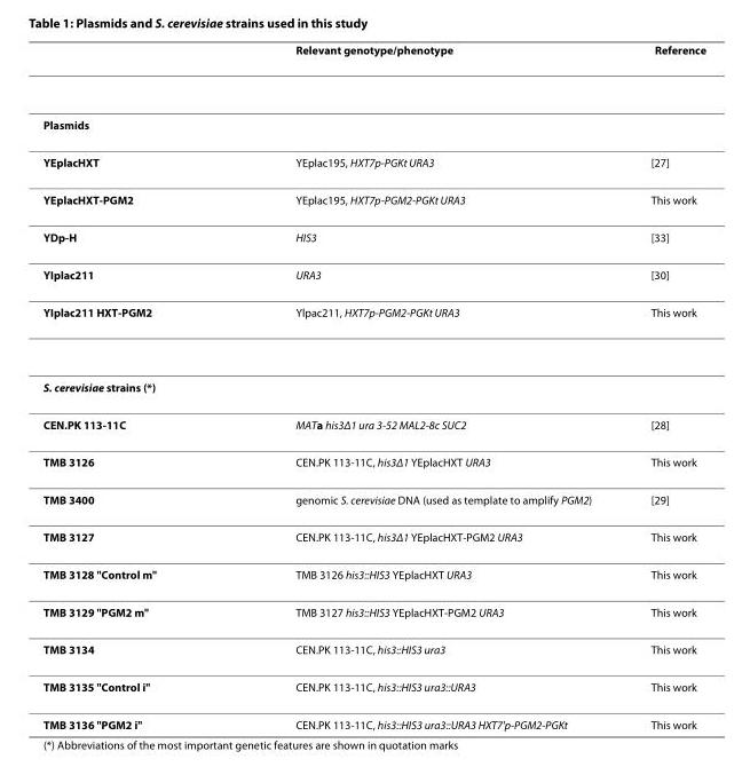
<table><thead><tr><td></td><td>Relevant genotype/phenotype</td><td>Reference</td></tr></thead><tbody><tr><td colspan="3">Plasmids</td></tr><tr><td>YEplacHXT</td><td>YEplac195, HXT7p-PGKt URA3</td><td>[27]</td></tr><tr><td>YEplacHXT-PGM2</td><td>YEplac195, HXT7p-PGM2-PGKt URA3</td><td>This work</td></tr><tr><td>YDp-H</td><td>HIS3</td><td>[33]</td></tr><tr><td>YIplac211</td><td>URA3</td><td>[30]</td></tr><tr><td>YIplac211 HXT-PGM2</td><td>Ylpac211, HXT7p-PGM2-PGKt URA3</td><td>This work</td></tr><tr><td colspan="3">S. cerevisiae strains (*)</td></tr><tr><td>CEN.PK 113-11C</td><td>MATa his3Δ1 ura 3-52 MAL2-8c SUC2</td><td>[28]</td></tr><tr><td>TMB 3126</td><td>CEN.PK 113-11C, his3Δ1 YEplacHXT URA3</td><td>This work</td></tr><tr><td>TMB 3400</td><td>genomic S. cerevisiae DNA (used as template to amplify PGM2)</td><td>[29]</td></tr><tr><td>TMB 3127</td><td>CEN.PK 113-11C, his3Δ1 YEplacHXT-PGM2 URA3</td><td>This work</td></tr><tr><td>TMB 3128 &quot;Control m&quot;</td><td>TMB 3126 his3::HIS3 YEplacHXT URA3</td><td>This work</td></tr><tr><td>TMB 3129 &quot;PGM2 m&quot;</td><td>TMB 3127 his3::HIS3 YEplacHXT-PGM2 URA3</td><td>This work</td></tr><tr><td>TMB 3134</td><td>CEN.PK 113-11C, his3::HIS3 ura3</td><td>This work</td></tr><tr><td>TMB 3135 &quot;Control i&quot;</td><td>CEN.PK 113-11C, his3::HIS3 ura3::URA3</td><td>This work</td></tr><tr><td>TMB 3136 &quot;PGM2 i&quot;</td><td>CEN.PK 113-11C, his3::HIS3 ura3::URA3 HXT7&#x27;p-PGM2-PGKt</td><td>This work</td></tr></tbody></table>